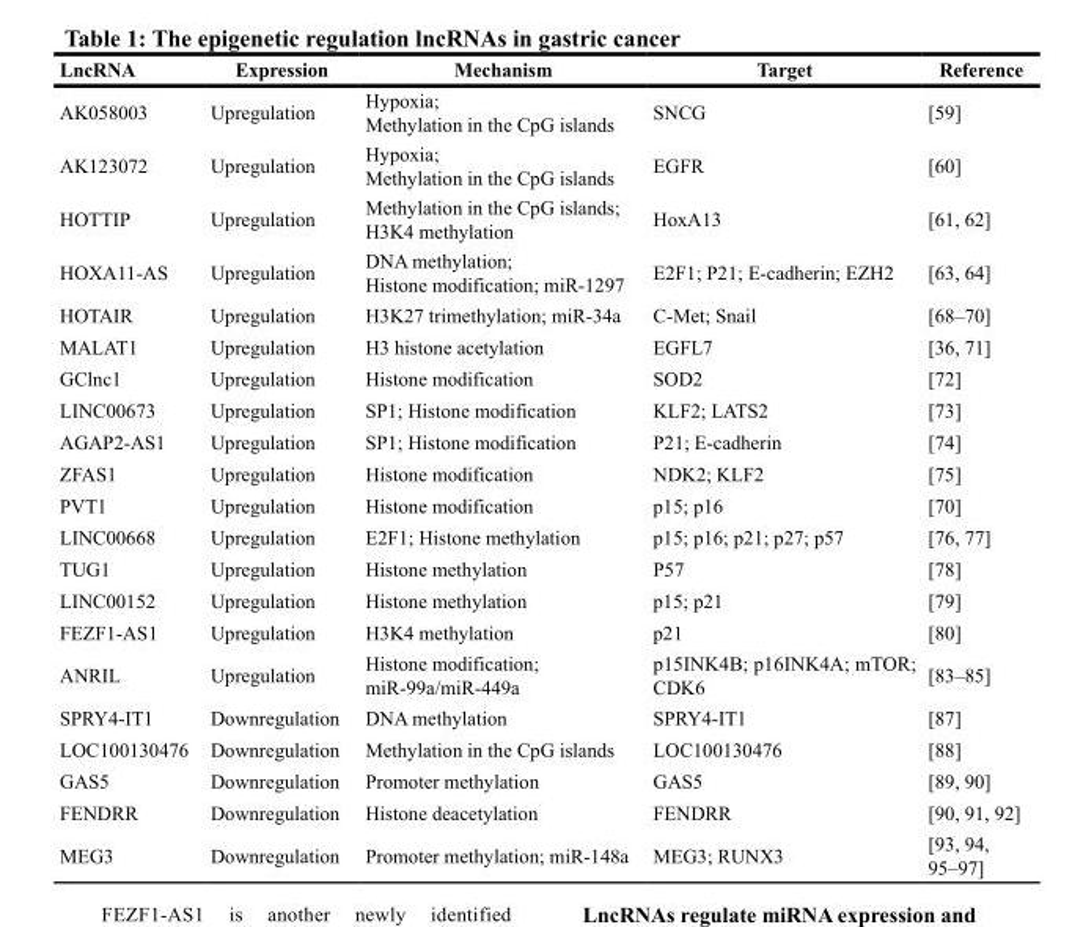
<table><thead><tr><td>LncRNA</td><td>Expression</td><td>Mechanism</td><td>Target</td><td>Reference</td></tr></thead><tbody><tr><td>AK058003</td><td>Upregulation</td><td>Hypoxia; Methylation in the CpG islands</td><td>SNCG</td><td>[59]</td></tr><tr><td>AK123072</td><td>Upregulation</td><td>Hypoxia; Methylation in the CpG islands</td><td>EGFR</td><td>[60]</td></tr><tr><td>HOTTIP</td><td>Upregulation</td><td>Methylation in the CpG islands; H3K4 methylation</td><td>HoxA13</td><td>[61, 62]</td></tr><tr><td>HOXA11-AS</td><td>Upregulation</td><td>DNA methylation; Histone modification; miR-1297</td><td>E2F1; P21; E-cadherin; EZH2</td><td>[63, 64]</td></tr><tr><td>HOTAIR</td><td>Upregulation</td><td>H3K27 trimethylation; miR-34a</td><td>C-Met; Snail</td><td>[68–70]</td></tr><tr><td>MALAT1</td><td>Upregulation</td><td>H3 histone acetylation</td><td>EGFL7</td><td>[36, 71]</td></tr><tr><td>GClnc1</td><td>Upregulation</td><td>Histone modification</td><td>SOD2</td><td>[72]</td></tr><tr><td>LINC00673</td><td>Upregulation</td><td>SP1; Histone modification</td><td>KLF2; LATS2</td><td>[73]</td></tr><tr><td>AGAP2-AS1</td><td>Upregulation</td><td>SP1; Histone modification</td><td>P21; E-cadherin</td><td>[74]</td></tr><tr><td>ZFAS1</td><td>Upregulation</td><td>Histone modification</td><td>NDK2; KLF2</td><td>[75]</td></tr><tr><td>PVT1</td><td>Upregulation</td><td>Histone modification</td><td>p15; p16</td><td>[70]</td></tr><tr><td>LINC00668</td><td>Upregulation</td><td>E2F1; Histone methylation</td><td>p15; p16; p21; p27; p57</td><td>[76, 77]</td></tr><tr><td>TUG1</td><td>Upregulation</td><td>Histone methylation</td><td>P57</td><td>[78]</td></tr><tr><td>LINC00152</td><td>Upregulation</td><td>Histone methylation</td><td>p15; p21</td><td>[79]</td></tr><tr><td>FEZF1-AS1</td><td>Upregulation</td><td>H3K4 methylation</td><td>p21</td><td>[80]</td></tr><tr><td>ANRIL</td><td>Upregulation</td><td>Histone modification; miR-99a/miR-449a</td><td>p15INK4B; p16INK4A; mTOR; CDK6</td><td>[83–85]</td></tr><tr><td>SPRY4-IT1</td><td>Downregulation</td><td>DNA methylation</td><td>SPRY4-IT1</td><td>[87]</td></tr><tr><td>LOC100130476</td><td>Downregulation</td><td>Methylation in the CpG islands</td><td>LOC100130476</td><td>[88]</td></tr><tr><td>GAS5</td><td>Downregulation</td><td>Promoter methylation</td><td>GAS5</td><td>[89, 90]</td></tr><tr><td>FENDRR</td><td>Downregulation</td><td>Histone deacetylation</td><td>FENDRR</td><td>[90, 91, 92]</td></tr><tr><td>MEG3</td><td>Downregulation</td><td>Promoter methylation; miR-148a</td><td>MEG3; RUNX3</td><td>[93, 94,</td></tr></tbody></table>